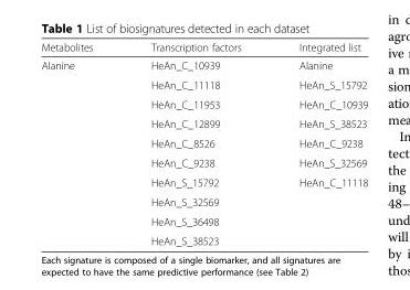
<table><thead><tr><td>Metabolites</td><td>Transcription factors</td><td>Integrated list</td></tr></thead><tbody><tr><td rowspan="10">Alanine</td><td>HeAn_C_10939</td><td>Alanine</td></tr><tr><td>HeAn_C_11118</td><td>HeAn_S_15792</td></tr><tr><td>HeAn_C_11953</td><td>HeAn_C_10939</td></tr><tr><td>HeAn_C_12899</td><td>HeAn_S_38523</td></tr><tr><td>HeAn_C_8526</td><td>HeAn_C_9238</td></tr><tr><td>HeAn_C_9238</td><td>HeAn_S_32569</td></tr><tr><td>HeAn_S_15792</td><td>HeAn_C_11118</td></tr><tr><td>HeAn_S_32569</td><td></td></tr><tr><td>HeAn_S_36498</td><td></td></tr><tr><td>HeAn_S_38523</td><td></td></tr></tbody></table>